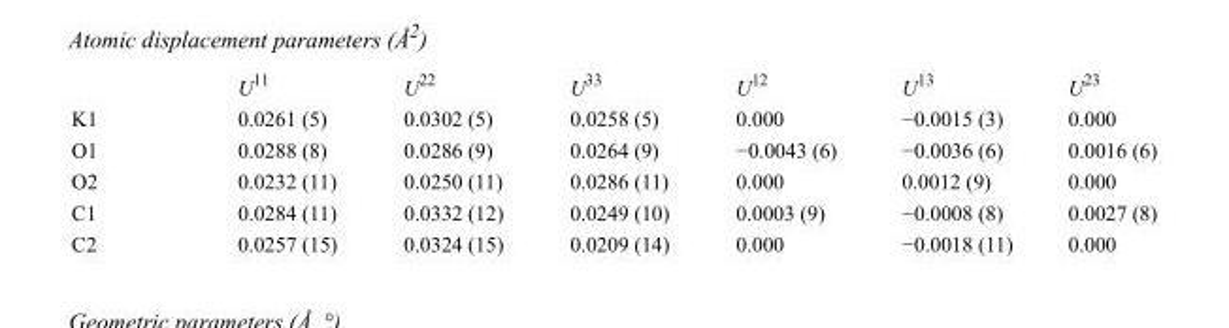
<table><thead><tr><td></td><td>U<sup>11</sup></td><td>U<sup>22</sup></td><td>U<sup>33</sup></td><td>U<sup>12</sup></td><td>U<sup>13</sup></td><td>U<sup>23</sup></td></tr></thead><tbody><tr><td>K1</td><td>0.0261 (5)</td><td>0.0302 (5)</td><td>0.0258 (5)</td><td>0.000</td><td>−0.0015 (3)</td><td>0.000</td></tr><tr><td>O1</td><td>0.0288 (8)</td><td>0.0286 (9)</td><td>0.0264 (9)</td><td>−0.0043 (6)</td><td>−0.0036 (6)</td><td>0.0016 (6)</td></tr><tr><td>O2</td><td>0.0232 (11)</td><td>0.0250 (11)</td><td>0.0286 (11)</td><td>0.000</td><td>0.0012 (9)</td><td>0.000</td></tr><tr><td>C1</td><td>0.0284 (11)</td><td>0.0332 (12)</td><td>0.0249 (10)</td><td>0.0003 (9)</td><td>−0.0008 (8)</td><td>0.0027 (8)</td></tr><tr><td>C2</td><td>0.0257 (15)</td><td>0.0324 (15)</td><td>0.0209 (14)</td><td>0.000</td><td>−0.0018 (11)</td><td>0.000</td></tr></tbody></table>